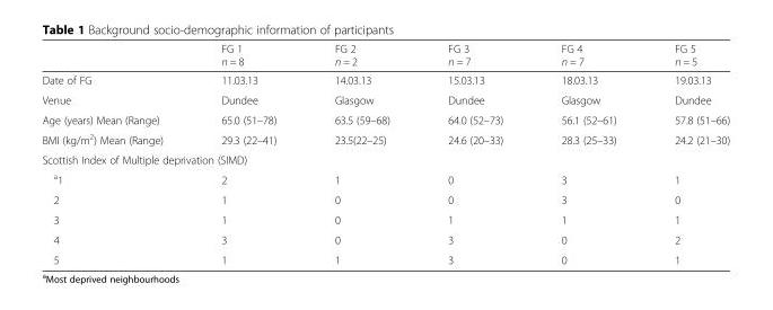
<table><thead><tr><td></td><td>FG 1 n = 8</td><td>FG 2 n = 2</td><td>FG 3 n = 7</td><td>FG 4 n = 7</td><td>FG 5 n = 5</td></tr></thead><tbody><tr><td>Date of FG</td><td>11.03.13</td><td>14.03.13</td><td>15.03.13</td><td>18.03.13</td><td>19.03.13</td></tr><tr><td>Venue</td><td>Dundee</td><td>Glasgow</td><td>Dundee</td><td>Glasgow</td><td>Dundee</td></tr><tr><td>Age (years) Mean (Range)</td><td>65.0 (51–78)</td><td>63.5 (59–68)</td><td>64.0 (52–73)</td><td>56.1 (52–61)</td><td>57.8 (51–66)</td></tr><tr><td>BMI (kg/m<sup>2</sup>) Mean (Range)</td><td>29.3 (22–41)</td><td>23.5(22–25)</td><td>24.6 (20–33)</td><td>28.3 (25–33)</td><td>24.2 (21–30)</td></tr><tr><td colspan="6">Scottish Index of Multiple deprivation (SIMD)</td></tr><tr><td><sup>a</sup>1</td><td>2</td><td>1</td><td>0</td><td>3</td><td>1</td></tr><tr><td>2</td><td>1</td><td>0</td><td>0</td><td>3</td><td>0</td></tr><tr><td>3</td><td>1</td><td>0</td><td>1</td><td>1</td><td>1</td></tr><tr><td>4</td><td>3</td><td>0</td><td>3</td><td>0</td><td>2</td></tr><tr><td>5</td><td>1</td><td>1</td><td>3</td><td>0</td><td>1</td></tr></tbody></table>